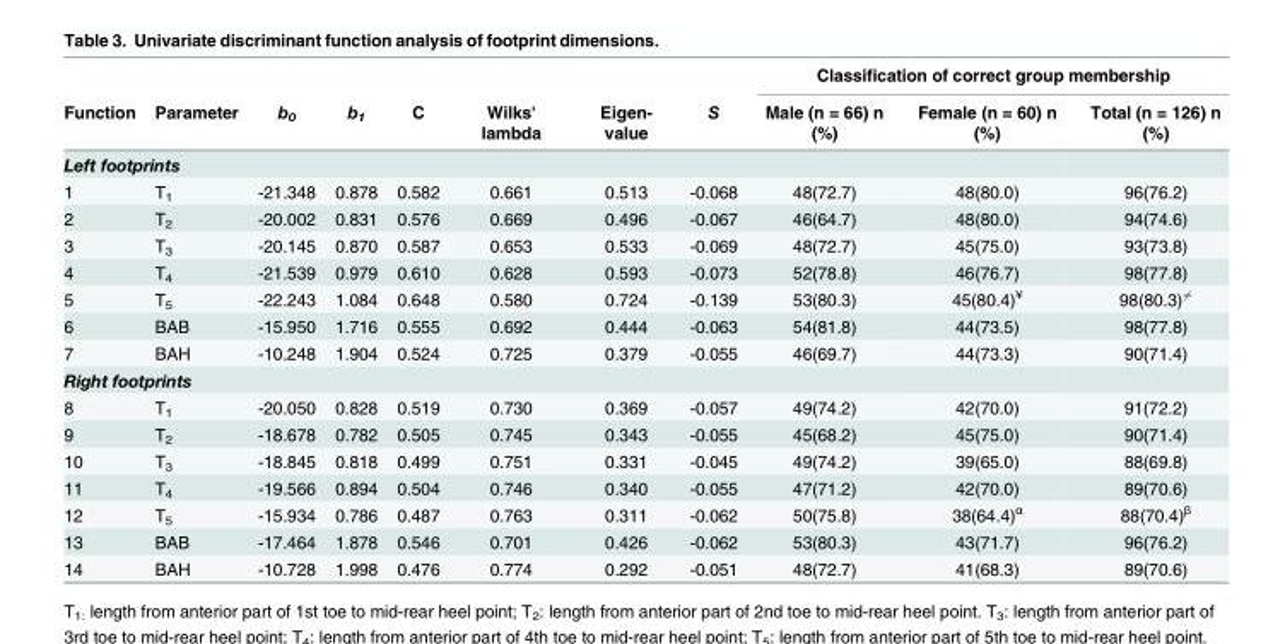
<table><thead><tr><td rowspan="2">Function</td><td rowspan="2">Parameter</td><td rowspan="2">b<sub>0</sub></td><td rowspan="2">b<sub>1</sub></td><td rowspan="2">C</td><td rowspan="2">Wilks&#x27; lambda</td><td rowspan="2">Eigen- value</td><td rowspan="2">S</td><td colspan="3">Classification of correct group membership</td></tr><tr><td>Male (n = 66) n (%)</td><td>Female (n = 60) n (%)</td><td>Total (n = 126) n (%)</td></tr></thead><tbody><tr><td colspan="11">Left footprints</td></tr><tr><td>1</td><td>T<sub>1</sub></td><td>-21.348</td><td>0.878</td><td>0.582</td><td>0.661</td><td>0.513</td><td>-0.068</td><td>48(72.7)</td><td>48(80.0)</td><td>96(76.2)</td></tr><tr><td>2</td><td>T<sub>2</sub></td><td>-20.002</td><td>0.831</td><td>0.576</td><td>0.669</td><td>0.496</td><td>-0.067</td><td>46(64.7)</td><td>48(80.0)</td><td>94(74.6)</td></tr><tr><td>3</td><td>T<sub>3</sub></td><td>-20.145</td><td>0.870</td><td>0.587</td><td>0.653</td><td>0.533</td><td>-0.069</td><td>48(72.7)</td><td>45(75.0)</td><td>93(73.8)</td></tr><tr><td>4</td><td>T<sub>4</sub></td><td>-21.539</td><td>0.979</td><td>0.610</td><td>0.628</td><td>0.593</td><td>-0.073</td><td>52(78.8)</td><td>46(76.7)</td><td>98(77.8)</td></tr><tr><td>5</td><td>T<sub>5</sub></td><td>-22.243</td><td>1.084</td><td>0.648</td><td>0.580</td><td>0.724</td><td>-0.139</td><td>53(80.3)</td><td>45(80.4)<sup>¥</sup></td><td>98(80.3)6¼</td></tr><tr><td>6</td><td>BAB</td><td>-15.950</td><td>1.716</td><td>0.555</td><td>0.692</td><td>0.444</td><td>-0.063</td><td>54(81.8)</td><td>44(73.5)</td><td>98(77.8)</td></tr><tr><td>7</td><td>BAH</td><td>-10.248</td><td>1.904</td><td>0.524</td><td>0.725</td><td>0.379</td><td>-0.055</td><td>46(69.7)</td><td>44(73.3)</td><td>90(71.4)</td></tr><tr><td colspan="11">Right footprints</td></tr><tr><td>8</td><td>T<sub>1</sub></td><td>-20.050</td><td>0.828</td><td>0.519</td><td>0.730</td><td>0.369</td><td>-0.057</td><td>49(74.2)</td><td>42(70.0)</td><td>91(72.2)</td></tr><tr><td>9</td><td>T<sub>2</sub></td><td>-18.678</td><td>0.782</td><td>0.505</td><td>0.745</td><td>0.343</td><td>-0.055</td><td>45(68.2)</td><td>45(75.0)</td><td>90(71.4)</td></tr><tr><td>10</td><td>T<sub>3</sub></td><td>-18.845</td><td>0.818</td><td>0.499</td><td>0.751</td><td>0.331</td><td>-0.045</td><td>49(74.2)</td><td>39(65.0)</td><td>88(69.8)</td></tr><tr><td>11</td><td>T<sub>4</sub></td><td>-19.566</td><td>0.894</td><td>0.504</td><td>0.746</td><td>0.340</td><td>-0.055</td><td>47(71.2)</td><td>42(70.0)</td><td>89(70.6)</td></tr><tr><td>12</td><td>T<sub>5</sub></td><td>-15.934</td><td>0.786</td><td>0.487</td><td>0.763</td><td>0.311</td><td>-0.062</td><td>50(75.8)</td><td>38(64.4)<sup>α</sup></td><td>88(70.4)<sup>β</sup></td></tr><tr><td>13</td><td>BAB</td><td>-17.464</td><td>1.878</td><td>0.546</td><td>0.701</td><td>0.426</td><td>-0.062</td><td>53(80.3)</td><td>43(71.7)</td><td>96(76.2)</td></tr><tr><td>14</td><td>BAH</td><td>-10.728</td><td>1.998</td><td>0.476</td><td>0.774</td><td>0.292</td><td>-0.051</td><td>48(72.7)</td><td>41(68.3)</td><td>89(70.6)</td></tr></tbody></table>